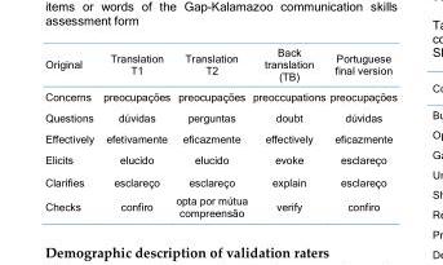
<table><thead><tr><td>Original</td><td>Translation T1</td><td>Translation T2</td><td>Back translation (TB)</td><td>Portuguese final version</td></tr></thead><tbody><tr><td>Concerns</td><td>preocupações</td><td>preocupações</td><td>preoccupations</td><td>preocupações</td></tr><tr><td>Questions</td><td>dúvidas</td><td>perguntas</td><td>doubt</td><td>dúvidas</td></tr><tr><td>Effectively</td><td>efetivamente</td><td>eficazmente</td><td>effectively</td><td>eficazmente</td></tr><tr><td>Elicits</td><td>elucido</td><td>elucido</td><td>evoke</td><td>esclareço</td></tr><tr><td>Clarifies</td><td>esclareço</td><td>esclareço</td><td>explain</td><td>esclareço</td></tr><tr><td>Checks</td><td>confiro</td><td>opta por mútua compreensão</td><td>verify</td><td>confiro</td></tr></tbody></table>